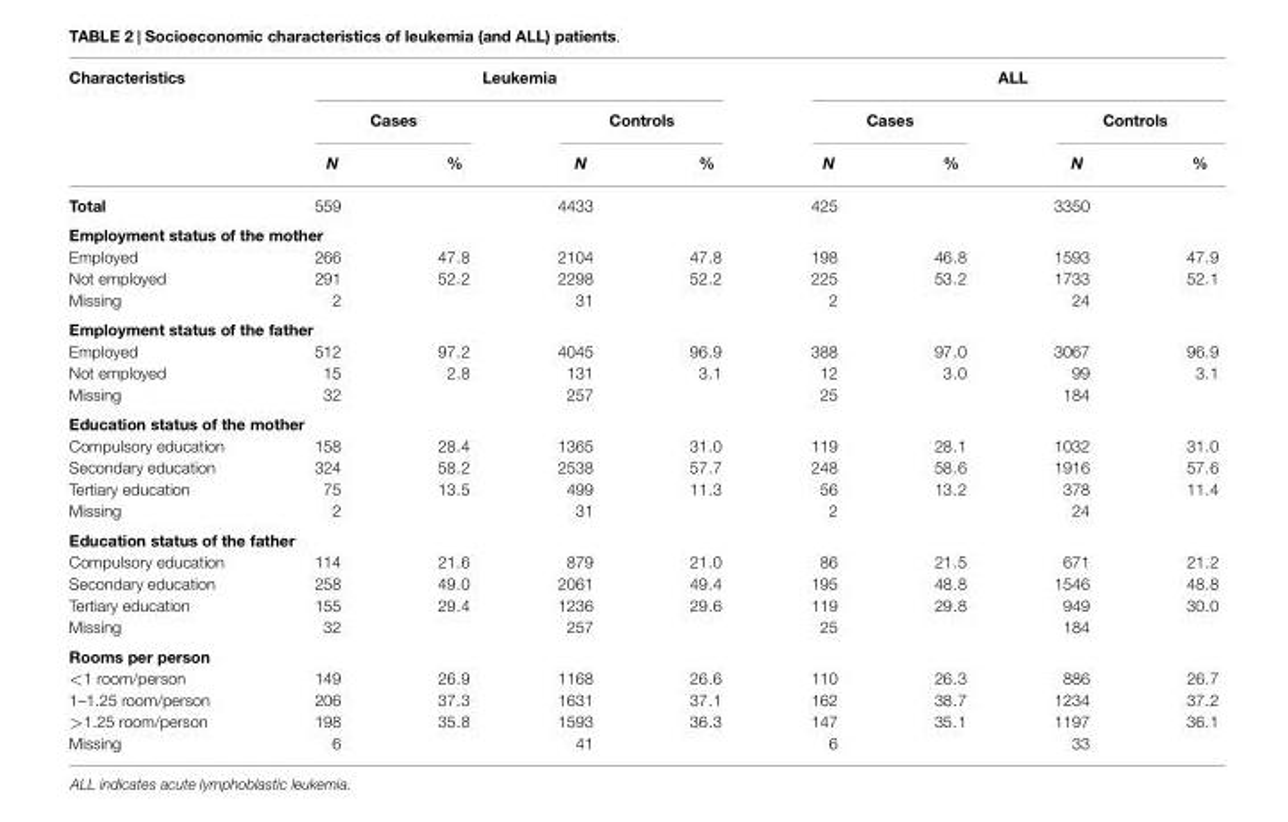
<table><thead><tr><td rowspan="3">Characteristics</td><td colspan="4">Leukemia</td><td colspan="4">ALL</td></tr><tr><td colspan="2">Cases</td><td colspan="2">Controls</td><td colspan="2">Cases</td><td colspan="2">Controls</td></tr><tr><td>N</td><td>%</td><td>N</td><td>%</td><td>N</td><td>%</td><td>N</td><td>%</td></tr></thead><tbody><tr><td>Total</td><td>559</td><td></td><td>4433</td><td></td><td>425</td><td></td><td>3350</td><td></td></tr><tr><td colspan="9">Employment status of the mother</td></tr><tr><td>Employed</td><td>266</td><td>47.8</td><td>2104</td><td>47.8</td><td>198</td><td>46.8</td><td>1593</td><td>47.9</td></tr><tr><td>Not employed</td><td>291</td><td>52.2</td><td>2298</td><td>52.2</td><td>225</td><td>53.2</td><td>1733</td><td>52.1</td></tr><tr><td>Missing</td><td>2</td><td></td><td>31</td><td></td><td>2</td><td></td><td>24</td><td></td></tr><tr><td colspan="9">Employment status of the father</td></tr><tr><td>Employed</td><td>512</td><td>97.2</td><td>4045</td><td>96.9</td><td>388</td><td>97.0</td><td>3067</td><td>96.9</td></tr><tr><td>Not employed</td><td>15</td><td>2.8</td><td>131</td><td>3.1</td><td>12</td><td>3.0</td><td>99</td><td>3.1</td></tr><tr><td>Missing</td><td>32</td><td></td><td>257</td><td></td><td>25</td><td></td><td>184</td><td></td></tr><tr><td colspan="9">Education status of the mother</td></tr><tr><td>Compulsory education</td><td>158</td><td>28.4</td><td>1365</td><td>31.0</td><td>119</td><td>28.1</td><td>1032</td><td>31.0</td></tr><tr><td>Secondary education</td><td>324</td><td>58.2</td><td>2538</td><td>57.7</td><td>248</td><td>58.6</td><td>1916</td><td>57.6</td></tr><tr><td>Tertiary education</td><td>75</td><td>13.5</td><td>499</td><td>11.3</td><td>56</td><td>13.2</td><td>378</td><td>11.4</td></tr><tr><td>Missing</td><td>2</td><td></td><td>31</td><td></td><td>2</td><td></td><td>24</td><td></td></tr><tr><td colspan="9">Education status of the father</td></tr><tr><td>Compulsory education</td><td>114</td><td>21.6</td><td>879</td><td>21.0</td><td>86</td><td>21.5</td><td>671</td><td>21.2</td></tr><tr><td>Secondary education</td><td>258</td><td>49.0</td><td>2061</td><td>49.4</td><td>195</td><td>48.8</td><td>1546</td><td>48.8</td></tr><tr><td>Tertiary education</td><td>155</td><td>29.4</td><td>1236</td><td>29.6</td><td>119</td><td>29.8</td><td>949</td><td>30.0</td></tr><tr><td>Missing</td><td>32</td><td></td><td>257</td><td></td><td>25</td><td></td><td>184</td><td></td></tr><tr><td colspan="9">Rooms per person</td></tr><tr><td>&lt;1 room/person</td><td>149</td><td>26.9</td><td>1168</td><td>26.6</td><td>110</td><td>26.3</td><td>886</td><td>26.7</td></tr><tr><td>1–1.25 room/person</td><td>206</td><td>37.3</td><td>1631</td><td>37.1</td><td>162</td><td>38.7</td><td>1234</td><td>37.2</td></tr><tr><td>&gt;1.25 room/person</td><td>198</td><td>35.8</td><td>1593</td><td>36.3</td><td>147</td><td>35.1</td><td>1197</td><td>36.1</td></tr><tr><td>Missing</td><td>6</td><td></td><td>41</td><td></td><td>6</td><td></td><td>33</td><td></td></tr></tbody></table>